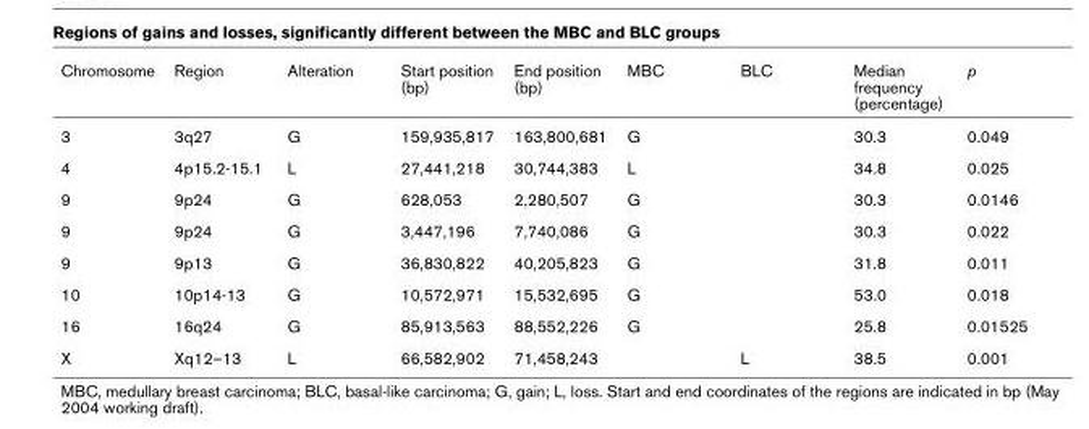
<table><thead><tr><td>Chromosome</td><td>Region</td><td>Alteration</td><td>Start position (bp)</td><td>End position (bp)</td><td>MBC</td><td>BLC</td><td>Median frequency (percentage)</td><td>p</td></tr></thead><tbody><tr><td>3</td><td>3q27</td><td>G</td><td>159,935,817</td><td>163,800,681</td><td>G</td><td></td><td>30.3</td><td>0.049</td></tr><tr><td>4</td><td>4p15.2-15.1</td><td>L</td><td>27,441,218</td><td>30,744,383</td><td>L</td><td></td><td>34.8</td><td>0.025</td></tr><tr><td>9</td><td>9p24</td><td>G</td><td>628,053</td><td>2,280,507</td><td>G</td><td></td><td>30.3</td><td>0.0146</td></tr><tr><td>9</td><td>9p24</td><td>G</td><td>3,447,196</td><td>7,740,086</td><td>G</td><td></td><td>30.3</td><td>0.022</td></tr><tr><td>9</td><td>9p13</td><td>G</td><td>36,830,822</td><td>40,205,823</td><td>G</td><td></td><td>31.8</td><td>0.011</td></tr><tr><td>10</td><td>10p14-13</td><td>G</td><td>10,572,971</td><td>15,532,695</td><td>G</td><td></td><td>53.0</td><td>0.018</td></tr><tr><td>16</td><td>16q24</td><td>G</td><td>85,913,563</td><td>88,552,226</td><td>G</td><td></td><td>25.8</td><td>0.01525</td></tr><tr><td>X</td><td>Xq12–13</td><td>L</td><td>66,582,902</td><td>71,458,243</td><td></td><td>L</td><td>38.5</td><td>0.001</td></tr></tbody></table>